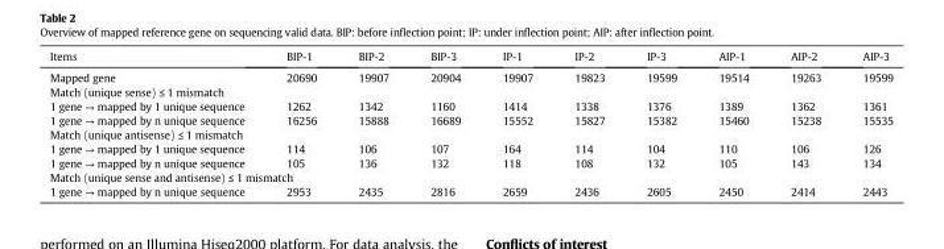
<table><thead><tr><td>Items</td><td>BIP-1</td><td>BIP-2</td><td>BIP-3</td><td>IP-1</td><td>IP-2</td><td>IP-3</td><td>AIP-1</td><td>AIP-2</td><td>AIP-3</td></tr></thead><tbody><tr><td>Mapped gene</td><td>20690</td><td>19907</td><td>20904</td><td>19907</td><td>19823</td><td>19599</td><td>19514</td><td>19263</td><td>19599</td></tr><tr><td colspan="10">Match (unique sense) ≤ 1 mismatch</td></tr><tr><td>1 gene → mapped by 1 unique sequence</td><td>1262</td><td>1342</td><td>1160</td><td>1414</td><td>1338</td><td>1376</td><td>1389</td><td>1362</td><td>1361</td></tr><tr><td>1 gene → mapped by n unique sequence</td><td>16256</td><td>15888</td><td>16689</td><td>15552</td><td>15827</td><td>15382</td><td>15460</td><td>15238</td><td>15535</td></tr><tr><td colspan="10">Match (unique antisense) ≤ 1 mismatch</td></tr><tr><td>1 gene → mapped by 1 unique sequence</td><td>114</td><td>106</td><td>107</td><td>164</td><td>114</td><td>104</td><td>110</td><td>106</td><td>126</td></tr><tr><td>1 gene → mapped by n unique sequence</td><td>105</td><td>136</td><td>132</td><td>118</td><td>108</td><td>132</td><td>105</td><td>143</td><td>134</td></tr><tr><td colspan="10">Match (unique sense and antisense) ≤ 1 mismatch</td></tr><tr><td>1 gene → mapped by n unique sequence</td><td>2953</td><td>2435</td><td>2816</td><td>2659</td><td>2436</td><td>2605</td><td>2450</td><td>2414</td><td>2443</td></tr></tbody></table>